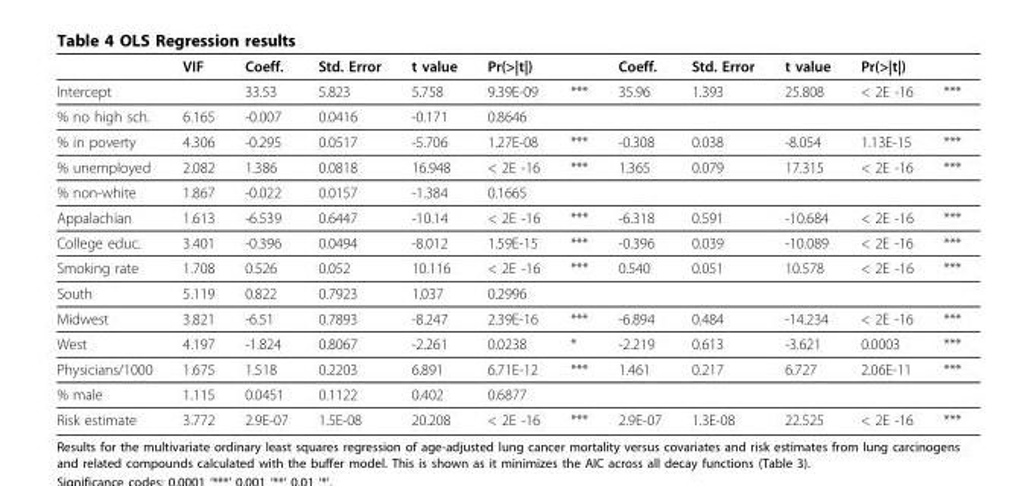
<table><thead><tr><td></td><td>VIF</td><td>Coeff.</td><td>Std. Error</td><td>t value</td><td>Pr(&gt;|t|)</td><td></td><td>Coeff.</td><td>Std. Error</td><td>t value</td><td>Pr(&gt;|t|)</td><td></td></tr></thead><tbody><tr><td>Intercept</td><td></td><td>33.53</td><td>5.823</td><td>5.758</td><td>9.39E-09</td><td>***</td><td>35.96</td><td>1.393</td><td>25.808</td><td>&lt; 2E -16</td><td>***</td></tr><tr><td>% no high sch.</td><td>6.165</td><td>-0.007</td><td>0.0416</td><td>-0.171</td><td>0.8646</td><td></td><td></td><td></td><td></td><td></td><td></td></tr><tr><td>% in poverty</td><td>4.306</td><td>-0.295</td><td>0.0517</td><td>-5.706</td><td>1.27E-08</td><td>***</td><td>-0.308</td><td>0.038</td><td>-8.054</td><td>1.13E-15</td><td>***</td></tr><tr><td>% unemployed</td><td>2.082</td><td>1.386</td><td>0.0818</td><td>16.948</td><td>&lt; 2E -16</td><td>***</td><td>1.365</td><td>0.079</td><td>17.315</td><td>&lt; 2E -16</td><td>***</td></tr><tr><td>% non-white</td><td>1.867</td><td>-0.022</td><td>0.0157</td><td>-1.384</td><td>0.1665</td><td></td><td></td><td></td><td></td><td></td><td></td></tr><tr><td>Appalachian</td><td>1.613</td><td>-6.539</td><td>0.6447</td><td>-10.14</td><td>&lt; 2E -16</td><td>***</td><td>-6.318</td><td>0.591</td><td>-10.684</td><td>&lt; 2E -16</td><td>***</td></tr><tr><td>College educ.</td><td>3.401</td><td>-0.396</td><td>0.0494</td><td>-8.012</td><td>1.59E-15</td><td>***</td><td>-0.396</td><td>0.039</td><td>-10.089</td><td>&lt; 2E -16</td><td>***</td></tr><tr><td>Smoking rate</td><td>1.708</td><td>0.526</td><td>0.052</td><td>10.116</td><td>&lt; 2E -16</td><td>***</td><td>0.540</td><td>0.051</td><td>10.578</td><td>&lt; 2E -16</td><td>***</td></tr><tr><td>South</td><td>5.119</td><td>0.822</td><td>0.7923</td><td>1.037</td><td>0.2996</td><td></td><td></td><td></td><td></td><td></td><td></td></tr><tr><td>Midwest</td><td>3.821</td><td>-6.51</td><td>0.7893</td><td>-8.247</td><td>2.39E-16</td><td>***</td><td>-6.894</td><td>0.484</td><td>-14.234</td><td>&lt; 2E -16</td><td>***</td></tr><tr><td>West</td><td>4.197</td><td>-1.824</td><td>0.8067</td><td>-2.261</td><td>0.0238</td><td>*</td><td>-2.219</td><td>0.613</td><td>-3.621</td><td>0.0003</td><td>***</td></tr><tr><td>Physicians/1000</td><td>1.675</td><td>1.518</td><td>0.2203</td><td>6.891</td><td>6.71E-12</td><td>***</td><td>1.461</td><td>0.217</td><td>6.727</td><td>2.06E-11</td><td>***</td></tr><tr><td>% male</td><td>1.115</td><td>0.0451</td><td>0.1122</td><td>0.402</td><td>0.6877</td><td></td><td></td><td></td><td></td><td></td><td></td></tr><tr><td>Risk estimate</td><td>3.772</td><td>2.9E-07</td><td>1.5E-08</td><td>20.208</td><td>&lt; 2E -16</td><td>***</td><td>2.9E-07</td><td>1.3E-08</td><td>22.525</td><td>&lt; 2E -16</td><td>***</td></tr></tbody></table>